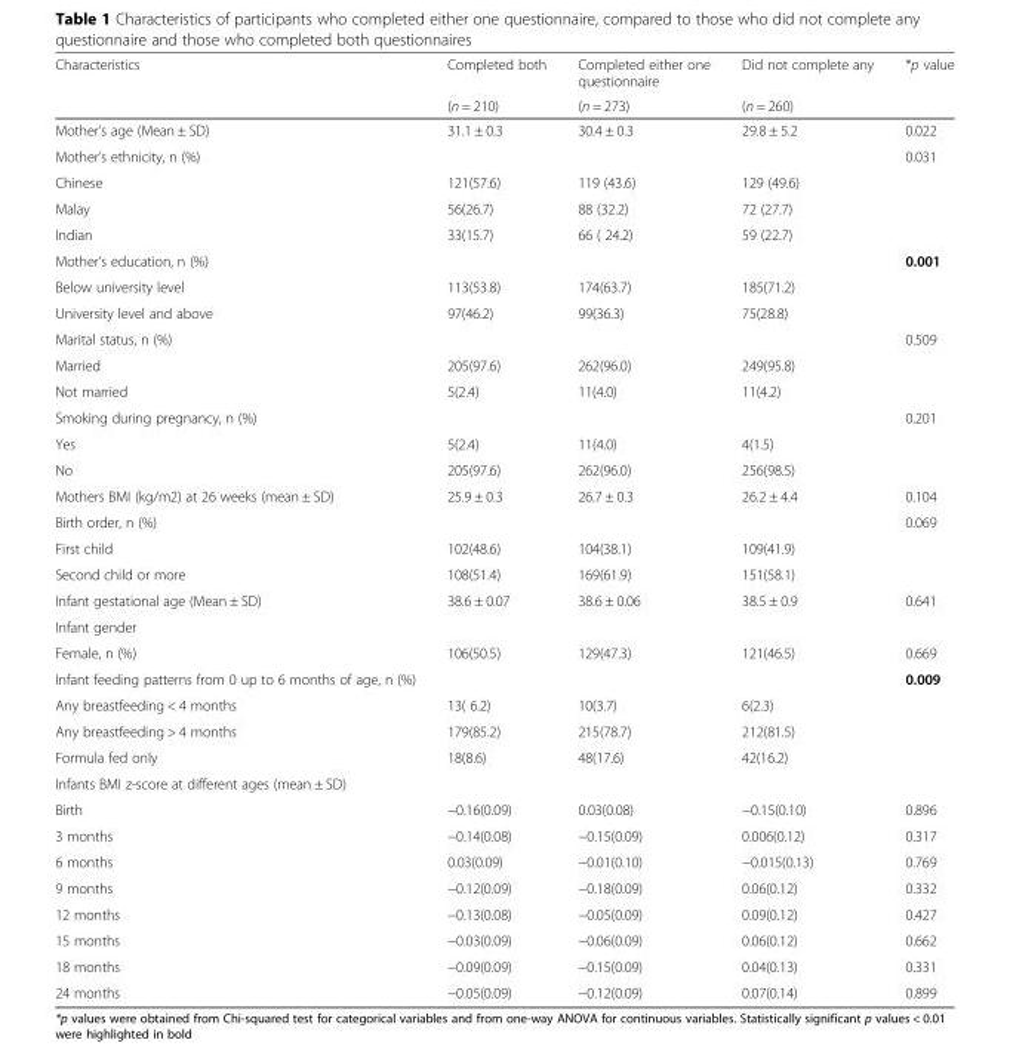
<table><thead><tr><td rowspan="2">Characteristics</td><td rowspan="2">Completed both (n = 210)</td><td rowspan="2">Completed either one questionnaire (n = 273)</td><td rowspan="2">Did not complete any (n = 260)</td><td rowspan="2">*p value</td></tr><tr></tr></thead><tbody><tr><td>Mother’s age (Mean ± SD)</td><td>31.1 ± 0.3</td><td>30.4 ± 0.3</td><td>29.8 ± 5.2</td><td>0.022</td></tr><tr><td>Mother’s ethnicity, n (%)</td><td></td><td></td><td></td><td>0.031</td></tr><tr><td>Chinese</td><td>121(57.6)</td><td>119 (43.6)</td><td>129 (49.6)</td><td></td></tr><tr><td>Malay</td><td>56(26.7)</td><td>88 (32.2)</td><td>72 (27.7)</td><td></td></tr><tr><td>Indian</td><td>33(15.7)</td><td>66 ( 24.2)</td><td>59 (22.7)</td><td></td></tr><tr><td>Mother’s education, n (%)</td><td></td><td></td><td></td><td>0.001</td></tr><tr><td>Below university level</td><td>113(53.8)</td><td>174(63.7)</td><td>185(71.2)</td><td></td></tr><tr><td>University level and above</td><td>97(46.2)</td><td>99(36.3)</td><td>75(28.8)</td><td></td></tr><tr><td>Marital status, n (%)</td><td></td><td></td><td></td><td>0.509</td></tr><tr><td>Married</td><td>205(97.6)</td><td>262(96.0)</td><td>249(95.8)</td><td></td></tr><tr><td>Not married</td><td>5(2.4)</td><td>11(4.0)</td><td>11(4.2)</td><td></td></tr><tr><td>Smoking during pregnancy, n (%)</td><td></td><td></td><td></td><td>0.201</td></tr><tr><td>Yes</td><td>5(2.4)</td><td>11(4.0)</td><td>4(1.5)</td><td></td></tr><tr><td>No</td><td>205(97.6)</td><td>262(96.0)</td><td>256(98.5)</td><td></td></tr><tr><td>Mothers BMI (kg/m2) at 26 weeks (mean ± SD)</td><td>25.9 ± 0.3</td><td>26.7 ± 0.3</td><td>26.2 ± 4.4</td><td>0.104</td></tr><tr><td>Birth order, n (%)</td><td></td><td></td><td></td><td>0.069</td></tr><tr><td>First child</td><td>102(48.6)</td><td>104(38.1)</td><td>109(41.9)</td><td></td></tr><tr><td>Second child or more</td><td>108(51.4)</td><td>169(61.9)</td><td>151(58.1)</td><td></td></tr><tr><td>Infant gestational age (Mean ± SD)</td><td>38.6 ± 0.07</td><td>38.6 ± 0.06</td><td>38.5 ± 0.9</td><td>0.641</td></tr><tr><td colspan="5">Infant gender</td></tr><tr><td>Female, n (%)</td><td>106(50.5)</td><td>129(47.3)</td><td>121(46.5)</td><td>0.669</td></tr><tr><td>Infant feeding patterns from 0 up to 6 months of age, n (%)</td><td></td><td></td><td></td><td>0.009</td></tr><tr><td>Any breastfeeding &lt; 4 months</td><td>13( 6.2)</td><td>10(3.7)</td><td>6(2.3)</td><td></td></tr><tr><td>Any breastfeeding &gt; 4 months</td><td>179(85.2)</td><td>215(78.7)</td><td>212(81.5)</td><td></td></tr><tr><td>Formula fed only</td><td>18(8.6)</td><td>48(17.6)</td><td>42(16.2)</td><td></td></tr><tr><td colspan="5">Infants BMI z-score at different ages (mean ± SD)</td></tr><tr><td>Birth</td><td>−0.16(0.09)</td><td>0.03(0.08)</td><td>−0.15(0.10)</td><td>0.896</td></tr><tr><td>3 months</td><td>−0.14(0.08)</td><td>−0.15(0.09)</td><td>0.006(0.12)</td><td>0.317</td></tr><tr><td>6 months</td><td>0.03(0.09)</td><td>−0.01(0.10)</td><td>−0.015(0.13)</td><td>0.769</td></tr><tr><td>9 months</td><td>−0.12(0.09)</td><td>−0.18(0.09)</td><td>0.06(0.12)</td><td>0.332</td></tr><tr><td>12 months</td><td>−0.13(0.08)</td><td>−0.05(0.09)</td><td>0.09(0.12)</td><td>0.427</td></tr><tr><td>15 months</td><td>−0.03(0.09)</td><td>−0.06(0.09)</td><td>0.06(0.12)</td><td>0.662</td></tr><tr><td>18 months</td><td>−0.09(0.09)</td><td>−0.15(0.09)</td><td>0.04(0.13)</td><td>0.331</td></tr><tr><td>24 months</td><td>−0.05(0.09)</td><td>−0.12(0.09)</td><td>0.07(0.14)</td><td>0.899</td></tr></tbody></table>